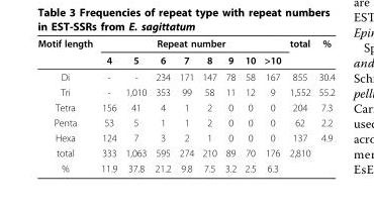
<table><thead><tr><td rowspan="2">Motif length</td><td colspan="8">Repeat number</td><td rowspan="2">total</td><td rowspan="2">%</td></tr><tr><td>4</td><td>5</td><td>6</td><td>7</td><td>8</td><td>9</td><td>10</td><td>&gt;10</td></tr></thead><tbody><tr><td>Di</td><td>-</td><td>-</td><td>234</td><td>171</td><td>147</td><td>78</td><td>58</td><td>167</td><td>855</td><td>30.4</td></tr><tr><td>Tri</td><td>-</td><td>1,010</td><td>353</td><td>99</td><td>58</td><td>11</td><td>12</td><td>9</td><td>1,552</td><td>55.2</td></tr><tr><td>Tetra</td><td>156</td><td>41</td><td>4</td><td>1</td><td>2</td><td>0</td><td>0</td><td>0</td><td>204</td><td>7.3</td></tr><tr><td>Penta</td><td>53</td><td>5</td><td>1</td><td>1</td><td>2</td><td>0</td><td>0</td><td>0</td><td>62</td><td>2.2</td></tr><tr><td>Hexa</td><td>124</td><td>7</td><td>3</td><td>2</td><td>1</td><td>0</td><td>0</td><td>0</td><td>137</td><td>4.9</td></tr><tr><td>total</td><td>333</td><td>1,063</td><td>595</td><td>274</td><td>210</td><td>89</td><td>70</td><td>176</td><td>2,810</td><td></td></tr><tr><td>%</td><td>11.9</td><td>37.8</td><td>21.2</td><td>9.8</td><td>7.5</td><td>3.2</td><td>2.5</td><td>6.3</td><td></td><td></td></tr></tbody></table>